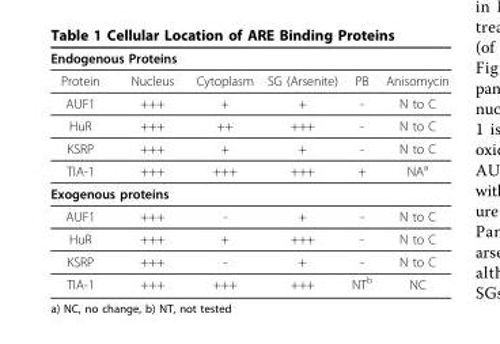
<table><thead><tr><td colspan="2">Endogenous Proteins</td><td rowspan="2">Cytoplasm</td><td rowspan="2">SG (Arsenite)</td><td rowspan="2">PB</td><td rowspan="2">Anisomycin</td></tr><tr><td>Protein</td><td>Nucleus</td></tr></thead><tbody><tr><td>AUF1</td><td>+++</td><td>+</td><td>+</td><td>-</td><td>N to C</td></tr><tr><td>HuR</td><td>+++</td><td>++</td><td>+++</td><td>-</td><td>N to C</td></tr><tr><td>KSRP</td><td>+++</td><td>+</td><td>+</td><td>-</td><td>N to C</td></tr><tr><td>TIA-1</td><td>+++</td><td>+++</td><td>+++</td><td>+</td><td>NA<sup>a</sup></td></tr><tr><td colspan="6">Exogenous proteins</td></tr><tr><td>AUF1</td><td>+++</td><td>-</td><td>+</td><td>-</td><td>N to C</td></tr><tr><td>HuR</td><td>+++</td><td>+</td><td>+++</td><td>-</td><td>N to C</td></tr><tr><td>KSRP</td><td>+++</td><td>-</td><td>+</td><td>-</td><td>N to C</td></tr><tr><td>TIA-1</td><td>+++</td><td>+++</td><td>+++</td><td>NT<sup>b</sup></td><td>NC</td></tr></tbody></table>